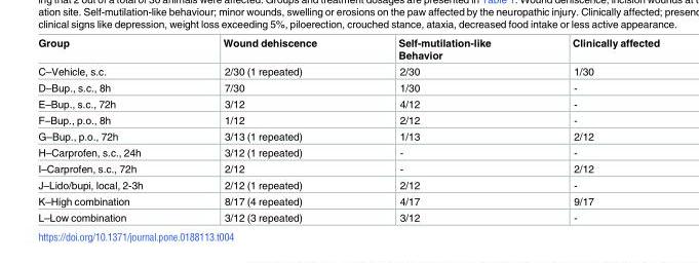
<table><thead><tr><td>Group</td><td>Wound dehiscence</td><td>Self-mutilation-like Behavior</td><td>Clinically affected</td></tr></thead><tbody><tr><td>C–Vehicle, s.c.</td><td>2/30 (1 repeated)</td><td>2/30</td><td>1/30</td></tr><tr><td>D–Bup., s.c., 8h</td><td>7/30</td><td>1/30</td><td>-</td></tr><tr><td>E–Bup., s.c., 72h</td><td>3/12</td><td>4/12</td><td>-</td></tr><tr><td>F–Bup., p.o., 8h</td><td>1/12</td><td>2/12</td><td>-</td></tr><tr><td>G–Bup., p.o., 72h</td><td>3/13 (1 repeated)</td><td>1/13</td><td>2/12</td></tr><tr><td>H–Carprofen, s.c., 24h</td><td>3/12 (1 repeated)</td><td>-</td><td>-</td></tr><tr><td>I–Carprofen, s.c., 72h</td><td>2/12</td><td>-</td><td>2/12</td></tr><tr><td>J–Lido/bupi, local, 2-3h</td><td>2/12 (1 repeated)</td><td>2/12</td><td>-</td></tr><tr><td>K–High combination</td><td>8/17 (4 repeated)</td><td>4/17</td><td>9/17</td></tr><tr><td>L–Low combination</td><td>3/12 (3 repeated)</td><td>3/12</td><td>-</td></tr></tbody></table>